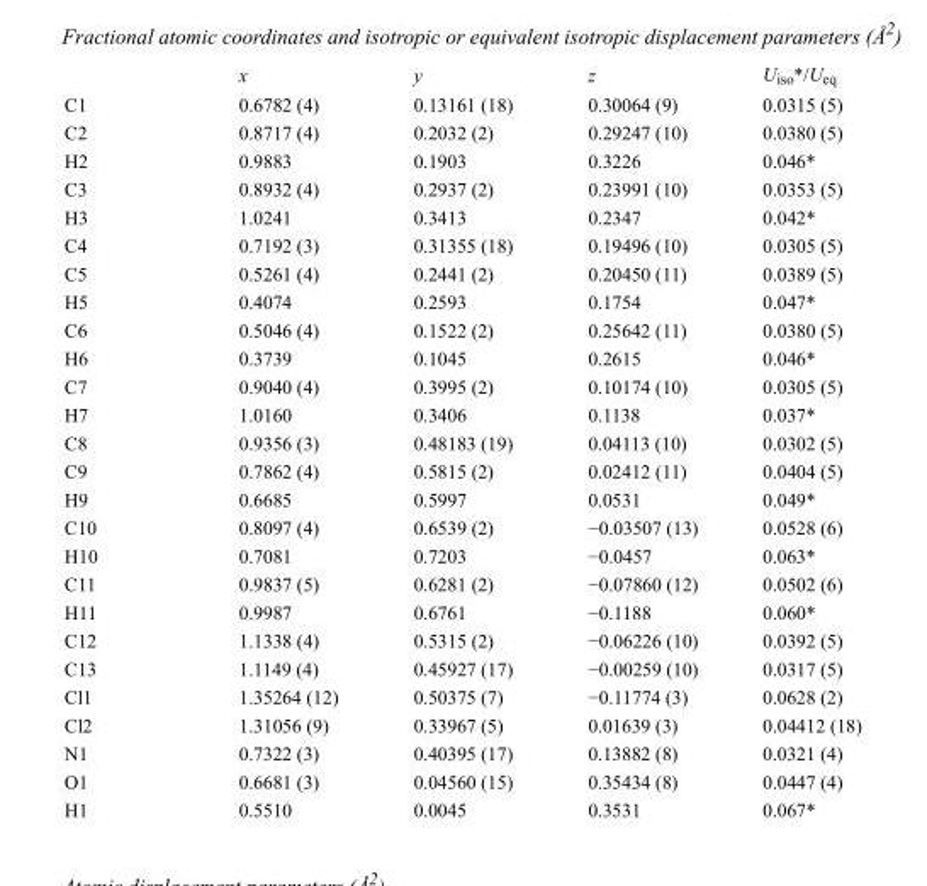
<table><thead><tr><td></td><td>x</td><td>y</td><td>z</td><td>U<sub>iso</sub>*/U<sub>eq</sub></td></tr></thead><tbody><tr><td>C1</td><td>0.6782 (4)</td><td>0.13161 (18)</td><td>0.30064 (9)</td><td>0.0315 (5)</td></tr><tr><td>C2</td><td>0.8717 (4)</td><td>0.2032 (2)</td><td>0.29247 (10)</td><td>0.0380 (5)</td></tr><tr><td>H2</td><td>0.9883</td><td>0.1903</td><td>0.3226</td><td>0.046*</td></tr><tr><td>C3</td><td>0.8932 (4)</td><td>0.2937 (2)</td><td>0.23991 (10)</td><td>0.0353 (5)</td></tr><tr><td>H3</td><td>1.0241</td><td>0.3413</td><td>0.2347</td><td>0.042*</td></tr><tr><td>C4</td><td>0.7192 (3)</td><td>0.31355 (18)</td><td>0.19496 (10)</td><td>0.0305 (5)</td></tr><tr><td>C5</td><td>0.5261 (4)</td><td>0.2441 (2)</td><td>0.20450 (11)</td><td>0.0389 (5)</td></tr><tr><td>H5</td><td>0.4074</td><td>0.2593</td><td>0.1754</td><td>0.047*</td></tr><tr><td>C6</td><td>0.5046 (4)</td><td>0.1522 (2)</td><td>0.25642 (11)</td><td>0.0380 (5)</td></tr><tr><td>H6</td><td>0.3739</td><td>0.1045</td><td>0.2615</td><td>0.046*</td></tr><tr><td>C7</td><td>0.9040 (4)</td><td>0.3995 (2)</td><td>0.10174 (10)</td><td>0.0305 (5)</td></tr><tr><td>H7</td><td>1.0160</td><td>0.3406</td><td>0.1138</td><td>0.037*</td></tr><tr><td>C8</td><td>0.9356 (3)</td><td>0.48183 (19)</td><td>0.04113 (10)</td><td>0.0302 (5)</td></tr><tr><td>C9</td><td>0.7862 (4)</td><td>0.5815 (2)</td><td>0.02412 (11)</td><td>0.0404 (5)</td></tr><tr><td>H9</td><td>0.6685</td><td>0.5997</td><td>0.0531</td><td>0.049*</td></tr><tr><td>C10</td><td>0.8097 (4)</td><td>0.6539 (2)</td><td>−0.03507 (13)</td><td>0.0528 (6)</td></tr><tr><td>H10</td><td>0.7081</td><td>0.7203</td><td>−0.0457</td><td>0.063*</td></tr><tr><td>C11</td><td>0.9837 (5)</td><td>0.6281 (2)</td><td>−0.07860 (12)</td><td>0.0502 (6)</td></tr><tr><td>H11</td><td>0.9987</td><td>0.6761</td><td>−0.1188</td><td>0.060*</td></tr><tr><td>C12</td><td>1.1338 (4)</td><td>0.5315 (2)</td><td>−0.06226 (10)</td><td>0.0392 (5)</td></tr><tr><td>C13</td><td>1.1149 (4)</td><td>0.45927 (17)</td><td>−0.00259 (10)</td><td>0.0317 (5)</td></tr><tr><td>Cl1</td><td>1.35264 (12)</td><td>0.50375 (7)</td><td>−0.11774 (3)</td><td>0.0628 (2)</td></tr><tr><td>Cl2</td><td>1.31056 (9)</td><td>0.33967 (5)</td><td>0.01639 (3)</td><td>0.04412 (18)</td></tr><tr><td>N1</td><td>0.7322 (3)</td><td>0.40395 (17)</td><td>0.13882 (8)</td><td>0.0321 (4)</td></tr><tr><td>O1</td><td>0.6681 (3)</td><td>0.04560 (15)</td><td>0.35434 (8)</td><td>0.0447 (4)</td></tr><tr><td>H1</td><td>0.5510</td><td>0.0045</td><td>0.3531</td><td>0.067*</td></tr></tbody></table>